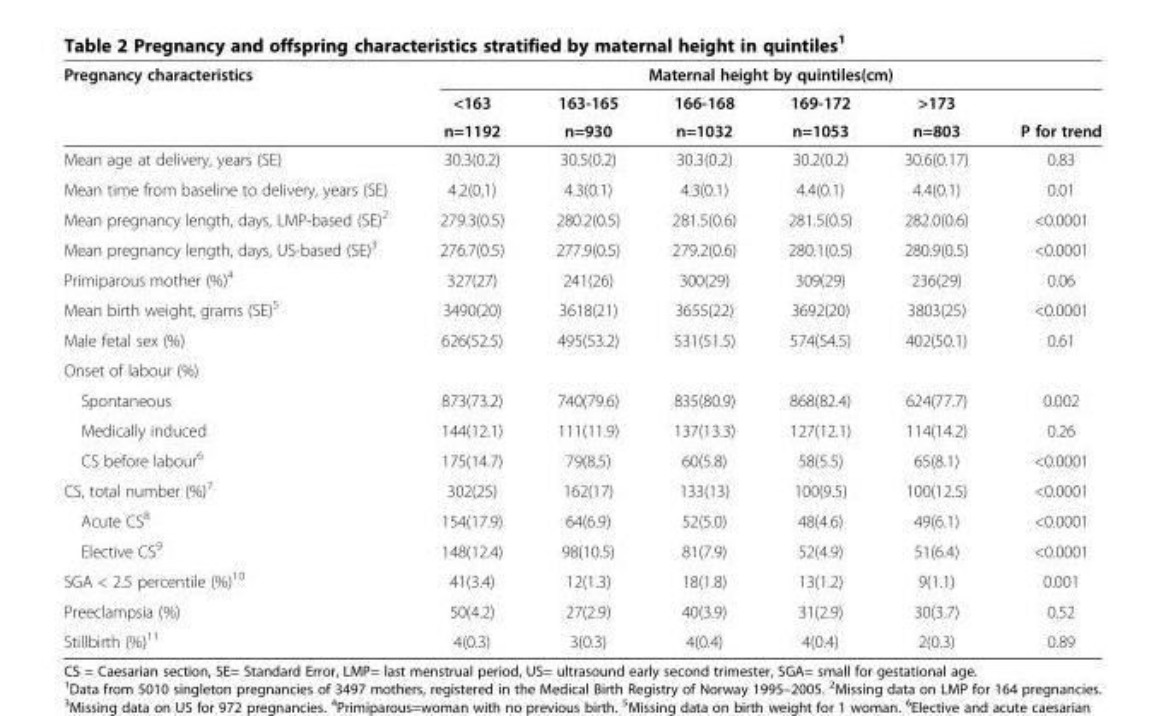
<table><thead><tr><td rowspan="3">Pregnancy characteristics</td><td colspan="6">Maternal height by quintiles(cm)</td></tr><tr><td rowspan="2">&lt;163 n=1192</td><td rowspan="2">163-165 n=930</td><td rowspan="2">166-168 n=1032</td><td rowspan="2">169-172 n=1053</td><td rowspan="2">&gt;173 n=803</td><td rowspan="2">P for trend</td></tr><tr></tr></thead><tbody><tr><td>Mean age at delivery, years (SE)</td><td>30.3(0.2)</td><td>30.5(0.2)</td><td>30.3(0.2)</td><td>30.2(0.2)</td><td>30.6(0.17)</td><td>0.83</td></tr><tr><td>Mean time from baseline to delivery, years (SE)</td><td>4.2(0,1)</td><td>4.3(0.1)</td><td>4.3(0.1)</td><td>4.4(0.1)</td><td>4.4(0.1)</td><td>0.01</td></tr><tr><td>Mean pregnancy length, days, LMP-based (SE)<sup>2</sup></td><td>279.3(0.5)</td><td>280.2(0.5)</td><td>281.5(0.6)</td><td>281.5(0.5)</td><td>282.0(0.6)</td><td>&lt;0.0001</td></tr><tr><td>Mean pregnancy length, days, US-based (SE)<sup>3</sup></td><td>276.7(0.5)</td><td>277.9(0.5)</td><td>279.2(0.6)</td><td>280.1(0.5)</td><td>280.9(0.5)</td><td>&lt;0.0001</td></tr><tr><td>Primiparous mother (%)<sup>4</sup></td><td>327(27)</td><td>241(26)</td><td>300(29)</td><td>309(29)</td><td>236(29)</td><td>0.06</td></tr><tr><td>Mean birth weight, grams (SE)<sup>5</sup></td><td>3490(20)</td><td>3618(21)</td><td>3655(22)</td><td>3692(20)</td><td>3803(25)</td><td>&lt;0.0001</td></tr><tr><td>Male fetal sex (%)</td><td>626(52.5)</td><td>495(53.2)</td><td>531(51.5)</td><td>574(54.5)</td><td>402(50.1)</td><td>0.61</td></tr><tr><td colspan="7">Onset of labour (%)</td></tr><tr><td>Spontaneous</td><td>873(73.2)</td><td>740(79.6)</td><td>835(80.9)</td><td>868(82.4)</td><td>624(77.7)</td><td>0.002</td></tr><tr><td>Medically induced</td><td>144(12.1)</td><td>111(11.9)</td><td>137(13.3)</td><td>127(12.1)</td><td>114(14.2)</td><td>0.26</td></tr><tr><td>CS before labour<sup>6</sup></td><td>175(14.7)</td><td>79(8,5)</td><td>60(5.8)</td><td>58(5.5)</td><td>65(8.1)</td><td>&lt;0.0001</td></tr><tr><td>CS, total number (%)<sup>7</sup></td><td>302(25)</td><td>162(17)</td><td>133(13)</td><td>100(9.5)</td><td>100(12.5)</td><td>&lt;0.0001</td></tr><tr><td>Acute CS<sup>8</sup></td><td>154(17.9)</td><td>64(6.9)</td><td>52(5.0)</td><td>48(4.6)</td><td>49(6.1)</td><td>&lt;0.0001</td></tr><tr><td>Elective CS<sup>9</sup></td><td>148(12.4)</td><td>98(10.5)</td><td>81(7.9)</td><td>52(4.9)</td><td>51(6.4)</td><td>&lt;0.0001</td></tr><tr><td>SGA &lt; 2.5 percentile (%)<sup>10</sup></td><td>41(3.4)</td><td>12(1.3)</td><td>18(1.8)</td><td>13(1.2)</td><td>9(1.1)</td><td>0.001</td></tr><tr><td>Preeclampsia (%)</td><td>50(4.2)</td><td>27(2.9)</td><td>40(3.9)</td><td>31(2.9)</td><td>30(3.7)</td><td>0.52</td></tr><tr><td>Stillbirth (%)<sup>11</sup></td><td>4(0.3)</td><td>3(0.3)</td><td>4(0.4)</td><td>4(0.4)</td><td>2(0.3)</td><td>0.89</td></tr></tbody></table>